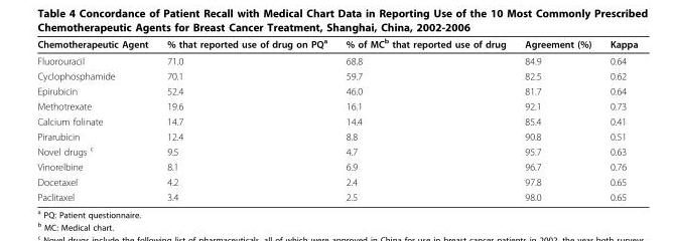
<table><thead><tr><td>Chemotherapeutic Agent</td><td>% that reported use of drug on PQ<sup>a</sup></td><td>% of MC<sup>b</sup> that reported use of drug</td><td>Agreement (%)</td><td>Kappa</td></tr></thead><tbody><tr><td>Fluorouracil</td><td>71.0</td><td>68.8</td><td>84.9</td><td>0.64</td></tr><tr><td>Cyclophosphamide</td><td>70.1</td><td>59.7</td><td>82.5</td><td>0.62</td></tr><tr><td>Epirubicin</td><td>52.4</td><td>46.0</td><td>81.7</td><td>0.64</td></tr><tr><td>Methotrexate</td><td>19.6</td><td>16.1</td><td>92.1</td><td>0.73</td></tr><tr><td>Calcium folinate</td><td>14.7</td><td>14.4</td><td>85.4</td><td>0.41</td></tr><tr><td>Pirarubicin</td><td>12.4</td><td>8.8</td><td>90.8</td><td>0.51</td></tr><tr><td>Novel drugs <sup>c</sup></td><td>9.5</td><td>4.7</td><td>95.7</td><td>0.63</td></tr><tr><td>Vinorelbine</td><td>8.1</td><td>6.9</td><td>96.7</td><td>0.76</td></tr><tr><td>Docetaxel</td><td>4.2</td><td>2.4</td><td>97.8</td><td>0.65</td></tr><tr><td>Paclitaxel</td><td>3.4</td><td>2.5</td><td>98.0</td><td>0.65</td></tr></tbody></table>